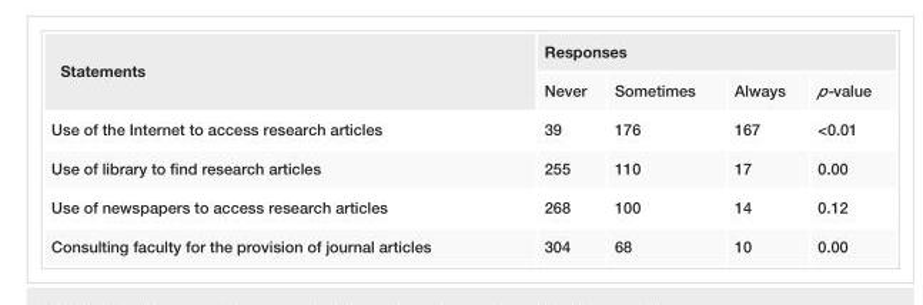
<table><tbody><tr><td rowspan="2">Statements</td><td colspan="4">Responses</td></tr><tr><td>Never</td><td>Sometimes</td><td>Always</td><td>p-value</td></tr><tr><td>Use of the Internet to access research articles</td><td>39</td><td>176</td><td>167</td><td>&lt;0.01</td></tr><tr><td>Use of library to find research articles</td><td>255</td><td>110</td><td>17</td><td>0.00</td></tr><tr><td>Use of newspapers to access research articles</td><td>268</td><td>100</td><td>14</td><td>0.12</td></tr><tr><td>Consulting faculty for the provision of journal articles</td><td>304</td><td>68</td><td>10</td><td>0.00</td></tr></tbody></table>